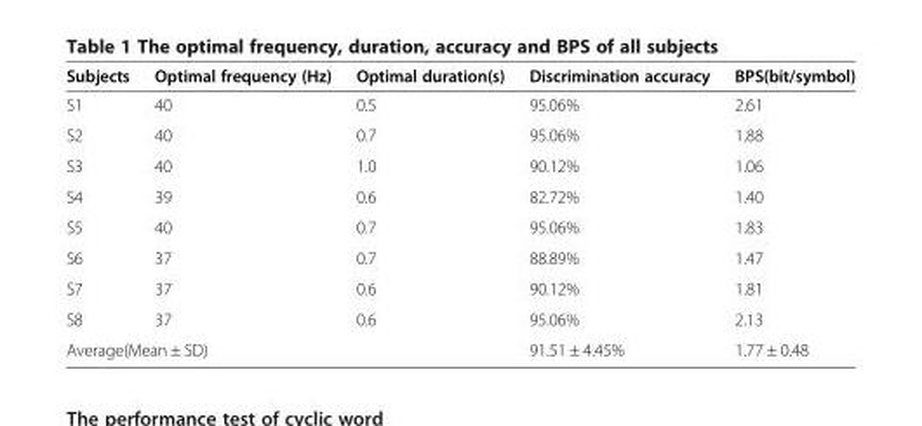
<table><thead><tr><td>Subjects</td><td>Optimal frequency (Hz)</td><td>Optimal duration(s)</td><td>Discrimination accuracy</td><td>BPS(bit/symbol)</td></tr></thead><tbody><tr><td>S1</td><td>40</td><td>0.5</td><td>95.06%</td><td>2.61</td></tr><tr><td>S2</td><td>40</td><td>0.7</td><td>95.06%</td><td>1.88</td></tr><tr><td>S3</td><td>40</td><td>1.0</td><td>90.12%</td><td>1.06</td></tr><tr><td>S4</td><td>39</td><td>0.6</td><td>82.72%</td><td>1.40</td></tr><tr><td>S5</td><td>40</td><td>0.7</td><td>95.06%</td><td>1.83</td></tr><tr><td>S6</td><td>37</td><td>0.7</td><td>88.89%</td><td>1.47</td></tr><tr><td>S7</td><td>37</td><td>0.6</td><td>90.12%</td><td>1.81</td></tr><tr><td>S8</td><td>37</td><td>0.6</td><td>95.06%</td><td>2.13</td></tr><tr><td colspan="3">Average(Mean ± SD)</td><td>91.51 ± 4.45%</td><td>1.77 ± 0.48</td></tr></tbody></table>